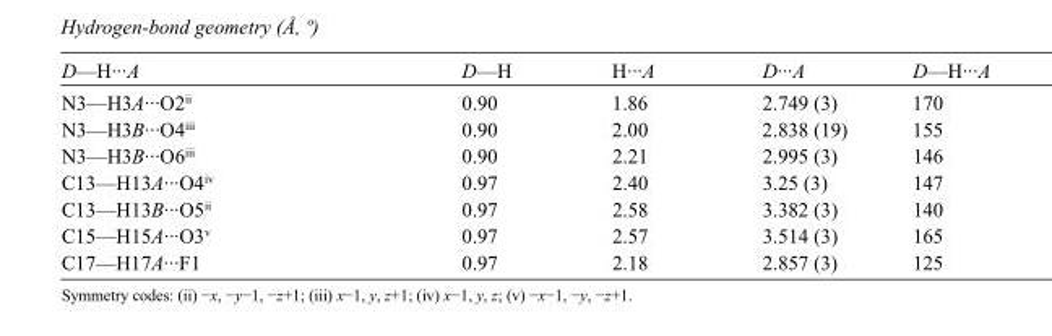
<table><tbody><tr><td>D—H···A</td><td>D—H</td><td>H···A</td><td>D···A</td><td>D—H···A</td></tr><tr><td>N3—H3A···O2<sup>ii</sup></td><td>0.90</td><td>1.86</td><td>2.749 (3)</td><td>170</td></tr><tr><td>N3—H3B···O4<sup>iii</sup></td><td>0.90</td><td>2.00</td><td>2.838 (19)</td><td>155</td></tr><tr><td>N3—H3B···O6<sup>iii</sup></td><td>0.90</td><td>2.21</td><td>2.995 (3)</td><td>146</td></tr><tr><td>C13—H13A···O4<sup>iv</sup></td><td>0.97</td><td>2.40</td><td>3.25 (3)</td><td>147</td></tr><tr><td>C13—H13B···O5<sup>ii</sup></td><td>0.97</td><td>2.58</td><td>3.382 (3)</td><td>140</td></tr><tr><td>C15—H15A···O3<sup>v</sup></td><td>0.97</td><td>2.57</td><td>3.514 (3)</td><td>165</td></tr><tr><td>C17—H17A···F1</td><td>0.97</td><td>2.18</td><td>2.857 (3)</td><td>125</td></tr></tbody></table>